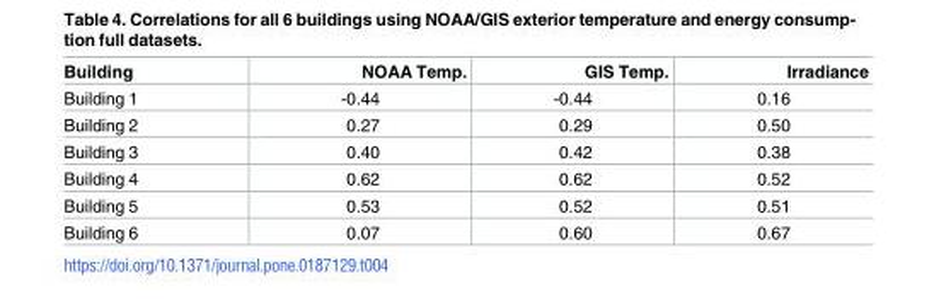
<table><thead><tr><td>Building</td><td>NOAA Temp.</td><td>GIS Temp.</td><td>Irradiance</td></tr></thead><tbody><tr><td>Building 1</td><td>-0.44</td><td>-0.44</td><td>0.16</td></tr><tr><td>Building 2</td><td>0.27</td><td>0.29</td><td>0.50</td></tr><tr><td>Building 3</td><td>0.40</td><td>0.42</td><td>0.38</td></tr><tr><td>Building 4</td><td>0.62</td><td>0.62</td><td>0.52</td></tr><tr><td>Building 5</td><td>0.53</td><td>0.52</td><td>0.51</td></tr><tr><td>Building 6</td><td>0.07</td><td>0.60</td><td>0.67</td></tr></tbody></table>